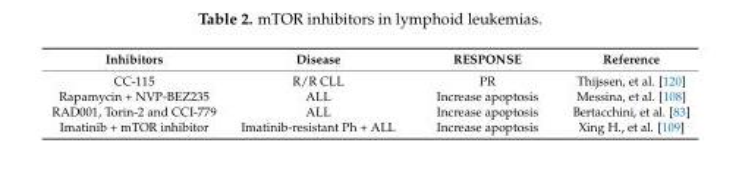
<table><thead><tr><td>Inhibitors</td><td>Disease</td><td>RESPONSE</td><td>Reference</td></tr></thead><tbody><tr><td>CC-115</td><td>R/R CLL</td><td>PR</td><td>Thijssen, et al. [120]</td></tr><tr><td>Rapamycin + NVP-BEZ235</td><td>ALL</td><td>Increase apoptosis</td><td>Messina, et al. [108]</td></tr><tr><td>RAD001, Torin-2 and CCI-779</td><td>ALL</td><td>Increase apoptosis</td><td>Bertacchini, et al. [83]</td></tr><tr><td>Imatinib + mTOR inhibitor</td><td>Imatinib-resistant Ph + ALL</td><td>Increase apoptosis</td><td>Xing H., et al. [109]</td></tr></tbody></table>